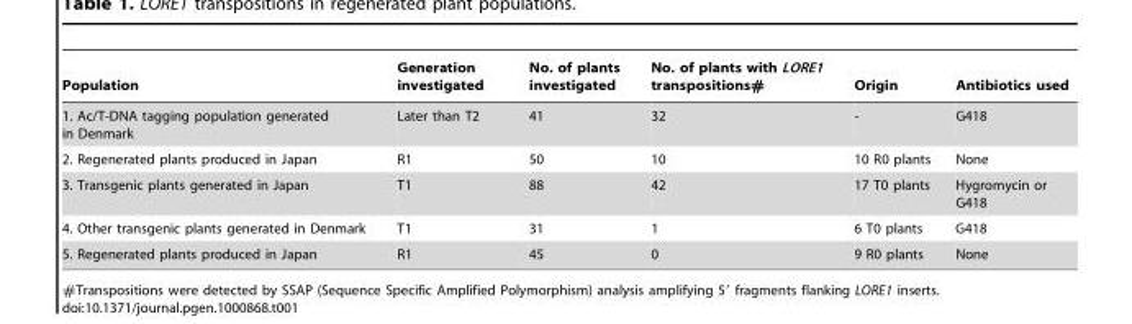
<table><thead><tr><td>Population</td><td>Generation investigated</td><td>No. of plants investigated</td><td>No. of plants with LORE1 transpositions#</td><td>Origin</td><td>Antibiotics used</td></tr></thead><tbody><tr><td>1. Ac/T-DNA tagging population generated in Denmark</td><td>Later than T2</td><td>41</td><td>32</td><td>-</td><td>G418</td></tr><tr><td>2. Regenerated plants produced in Japan</td><td>R1</td><td>50</td><td>10</td><td>10 R0 plants</td><td>None</td></tr><tr><td>3. Transgenic plants generated in Japan</td><td>T1</td><td>88</td><td>42</td><td>17 T0 plants</td><td>Hygromycin or G418</td></tr><tr><td>4. Other transgenic plants generated in Denmark</td><td>T1</td><td>31</td><td>1</td><td>6 T0 plants</td><td>G418</td></tr><tr><td>5. Regenerated plants produced in Japan</td><td>R1</td><td>45</td><td>0</td><td>9 R0 plants</td><td>None</td></tr></tbody></table>